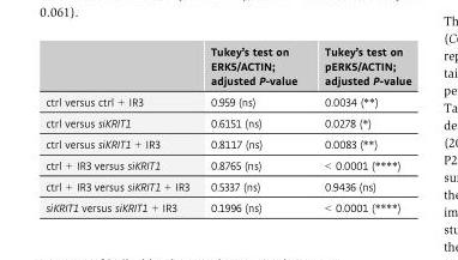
<table><thead><tr><td></td><td>Tukey’s test on ERK5/ACTIN; adjusted P-value</td><td>Tukey’s test on pERK5/ACTIN; adjusted P-value</td></tr></thead><tbody><tr><td>ctrl versus ctrl + IR3</td><td>0.959 (ns)</td><td>0.0034 (**)</td></tr><tr><td>ctrl versus siKRIT1</td><td>0.6151 (ns)</td><td>0.0278 (*)</td></tr><tr><td>ctrl versus siKRIT1 + IR3</td><td>0.8117 (ns)</td><td>0.0083 (**)</td></tr><tr><td>ctrl + IR3 versus siKRIT1</td><td>0.8765 (ns)</td><td>&lt; 0.0001 (****)</td></tr><tr><td>ctrl + IR3 versus siKRIT1 + IR3</td><td>0.5337 (ns)</td><td>0.9436 (ns)</td></tr><tr><td>siKRIT1 versus siKRIT1 + IR3</td><td>0.1996 (ns)</td><td>&lt; 0.0001 (****)</td></tr></tbody></table>